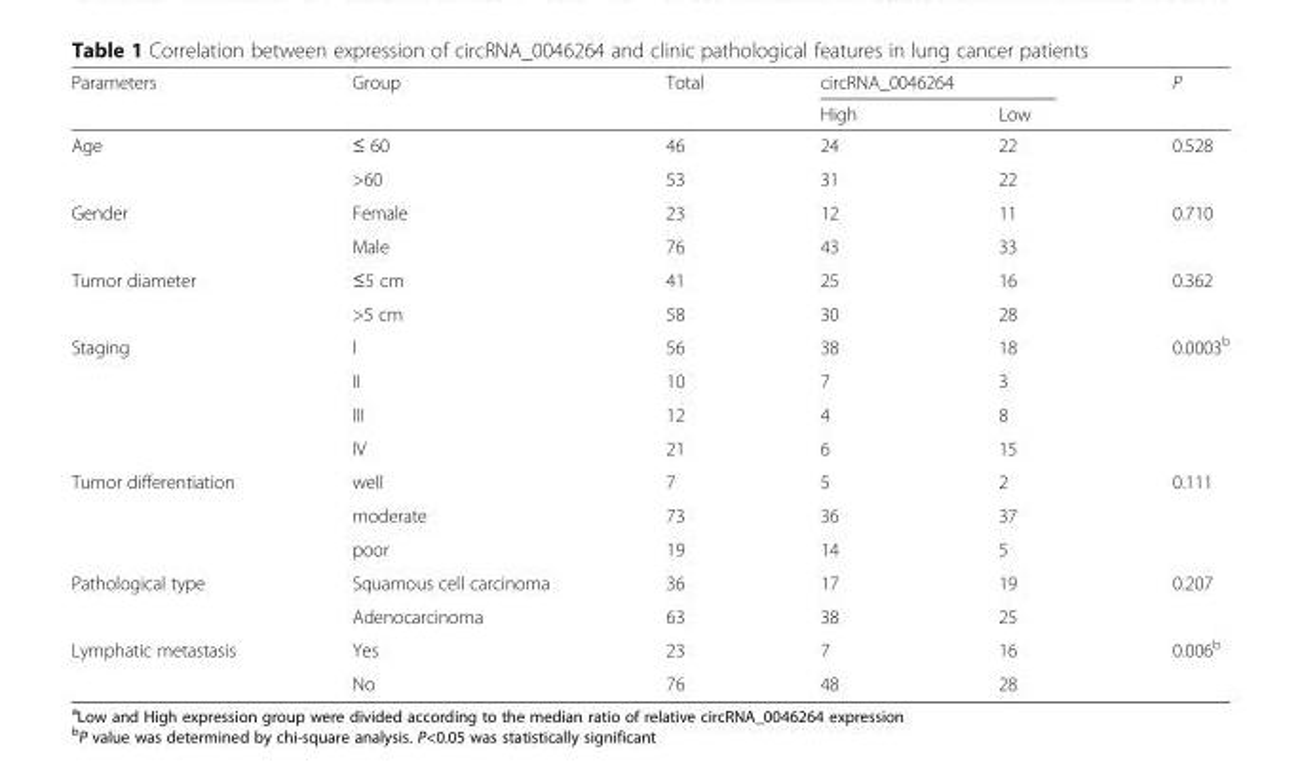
<table><thead><tr><td rowspan="2">Parameters</td><td rowspan="2">Group</td><td rowspan="2">Total</td><td colspan="2">circRNA_0046264</td><td rowspan="2">P</td></tr><tr><td>High</td><td>Low</td></tr></thead><tbody><tr><td rowspan="2">Age</td><td>≤ 60</td><td>46</td><td>24</td><td>22</td><td>0.528</td></tr><tr><td>&gt;60</td><td>53</td><td>31</td><td>22</td><td></td></tr><tr><td rowspan="2">Gender</td><td>Female</td><td>23</td><td>12</td><td>11</td><td>0.710</td></tr><tr><td>Male</td><td>76</td><td>43</td><td>33</td><td></td></tr><tr><td rowspan="2">Tumor diameter</td><td>≤5 cm</td><td>41</td><td>25</td><td>16</td><td>0.362</td></tr><tr><td>&gt;5 cm</td><td>58</td><td>30</td><td>28</td><td></td></tr><tr><td rowspan="4">Staging</td><td>I</td><td>56</td><td>38</td><td>18</td><td>0.0003<sup>b</sup></td></tr><tr><td>II</td><td>10</td><td>7</td><td>3</td><td></td></tr><tr><td>III</td><td>12</td><td>4</td><td>8</td><td></td></tr><tr><td>IV</td><td>21</td><td>6</td><td>15</td><td></td></tr><tr><td rowspan="3">Tumor differentiation</td><td>well</td><td>7</td><td>5</td><td>2</td><td>0.111</td></tr><tr><td>moderate</td><td>73</td><td>36</td><td>37</td><td></td></tr><tr><td>poor</td><td>19</td><td>14</td><td>5</td><td></td></tr><tr><td rowspan="2">Pathological type</td><td>Squamous cell carcinoma</td><td>36</td><td>17</td><td>19</td><td>0.207</td></tr><tr><td>Adenocarcinoma</td><td>63</td><td>38</td><td>25</td><td></td></tr><tr><td rowspan="2">Lymphatic metastasis</td><td>Yes</td><td>23</td><td>7</td><td>16</td><td>0.006<sup>b</sup></td></tr><tr><td>No</td><td>76</td><td>48</td><td>28</td><td></td></tr></tbody></table>